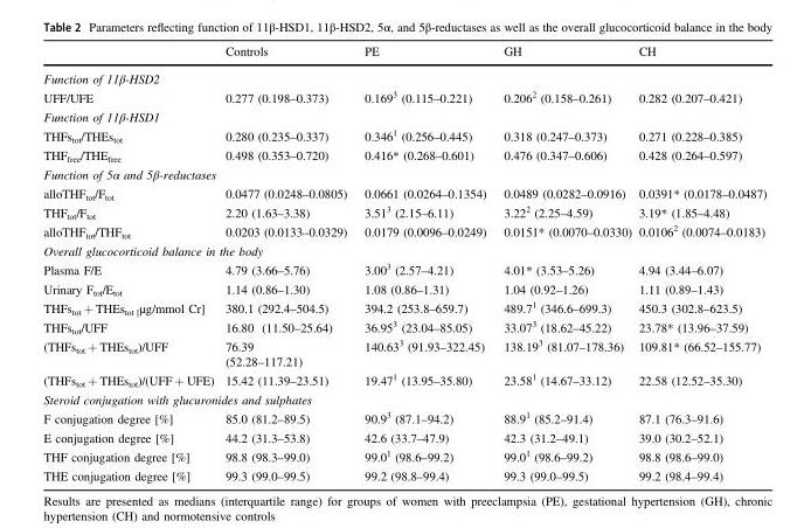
<table><thead><tr><td></td><td>Controls</td><td>PE</td><td>GH</td><td>CH</td></tr></thead><tbody><tr><td colspan="5">Function of 11β-HSD2</td></tr><tr><td>UFF/UFE</td><td>0.277 (0.198–0.373)</td><td>0.169<sup>3</sup> (0.115–0.221)</td><td>0.206<sup>2</sup> (0.158–0.261)</td><td>0.282 (0.207–0.421)</td></tr><tr><td colspan="5">Function of 11β-HSD1</td></tr><tr><td>THFs<sub>tot</sub>/THEs<sub>tot</sub></td><td>0.280 (0.235–0.337)</td><td>0.346<sup>1</sup> (0.256–0.445)</td><td>0.318 (0.247–0.373)</td><td>0.271 (0.228–0.385)</td></tr><tr><td>THF<sub>free</sub>/THE<sub>free</sub></td><td>0.498 (0.353–0.720)</td><td>0.416* (0.268–0.601)</td><td>0.476 (0.347–0.606)</td><td>0.428 (0.264–0.597)</td></tr><tr><td colspan="5">Function of 5α and 5β-reductases</td></tr><tr><td>alloTHF<sub>tot</sub>/F<sub>tot</sub></td><td>0.0477 (0.0248–0.0805)</td><td>0.0661 (0.0264–0.1354)</td><td>0.0489 (0.0282–0.0916)</td><td>0.0391* (0.0178–0.0487)</td></tr><tr><td>THF<sub>tot</sub>/F<sub>tot</sub></td><td>2.20 (1.63–3.38)</td><td>3.51<sup>3</sup> (2.15–6.11)</td><td>3.22<sup>2</sup> (2.25–4.59)</td><td>3.19* (1.85–4.48)</td></tr><tr><td>alloTHF<sub>tot</sub>/THF<sub>tot</sub></td><td>0.0203 (0.0133–0.0329)</td><td>0.0179 (0.0096–0.0249)</td><td>0.0151* (0.0070–0.0330)</td><td>0.0106<sup>2</sup> (0.0074–0.0183)</td></tr><tr><td colspan="5">Overall glucocorticoid balance in the body</td></tr><tr><td>Plasma F/E</td><td>4.79 (3.66–5.76)</td><td>3.00<sup>3</sup> (2.57–4.21)</td><td>4.01* (3.53–5.26)</td><td>4.94 (3.44–6.07)</td></tr><tr><td>Urinary F<sub>tot</sub>/E<sub>tot</sub></td><td>1.14 (0.86–1.30)</td><td>1.08 (0.86–1.31)</td><td>1.04 (0.92–1.26)</td><td>1.11 (0.89–1.43)</td></tr><tr><td>THFs<sub>tot</sub> + THEs<sub>tot [</sub>µg/mmol Cr]</td><td>380.1 (292.4–504.5)</td><td>394.2 (253.8–659.7)</td><td>489.7<sup>1</sup> (346.6–699.3)</td><td>450.3 (302.8–623.5)</td></tr><tr><td>THFs<sub>tot</sub>/UFF</td><td>16.80 (11.50–25.64)</td><td>36.95<sup>3</sup> (23.04–85.05)</td><td>33.07<sup>3</sup> (18.62–45.22)</td><td>23.78* (13.96–37.59)</td></tr><tr><td>(THFs<sub>tot</sub> + THEs<sub>tot</sub>)/UFF</td><td>76.39 (52.28–117.21)</td><td>140.63<sup>3</sup> (91.93–322.45)</td><td>138.19<sup>3</sup> (81.07–178.36)</td><td>109.81* (66.52–155.77)</td></tr><tr><td>(THFs<sub>tot</sub> + THEs<sub>tot</sub>)/(UFF + UFE)</td><td>15.42 (11.39–23.51)</td><td>19.47<sup>1</sup> (13.95–35.80)</td><td>23.58<sup>1</sup> (14.67–33.12)</td><td>22.58 (12.52–35.30)</td></tr><tr><td colspan="5">Steroid conjugation with glucuronides and sulphates</td></tr><tr><td>F conjugation degree [%]</td><td>85.0 (81.2–89.5)</td><td>90.9<sup>3</sup> (87.1–94.2)</td><td>88.9<sup>1</sup> (85.2–91.4)</td><td>87.1 (76.3–91.6)</td></tr><tr><td>E conjugation degree [%]</td><td>44.2 (31.3–53.8)</td><td>42.6 (33.7–47.9)</td><td>42.3 (31.2–49.1)</td><td>39.0 (30.2–52.1)</td></tr><tr><td>THF conjugation degree [%]</td><td>98.8 (98.3–99.0)</td><td>99.0<sup>1</sup> (98.6–99.2)</td><td>99.0<sup>1</sup> (98.6–99.2)</td><td>98.8 (98.6–99.0)</td></tr><tr><td>THE conjugation degree [%]</td><td>99.3 (99.0–99.5)</td><td>99.2 (98.8–99.4)</td><td>99.3 (99.0–99.5)</td><td>99.2 (98.4–99.4)</td></tr></tbody></table>